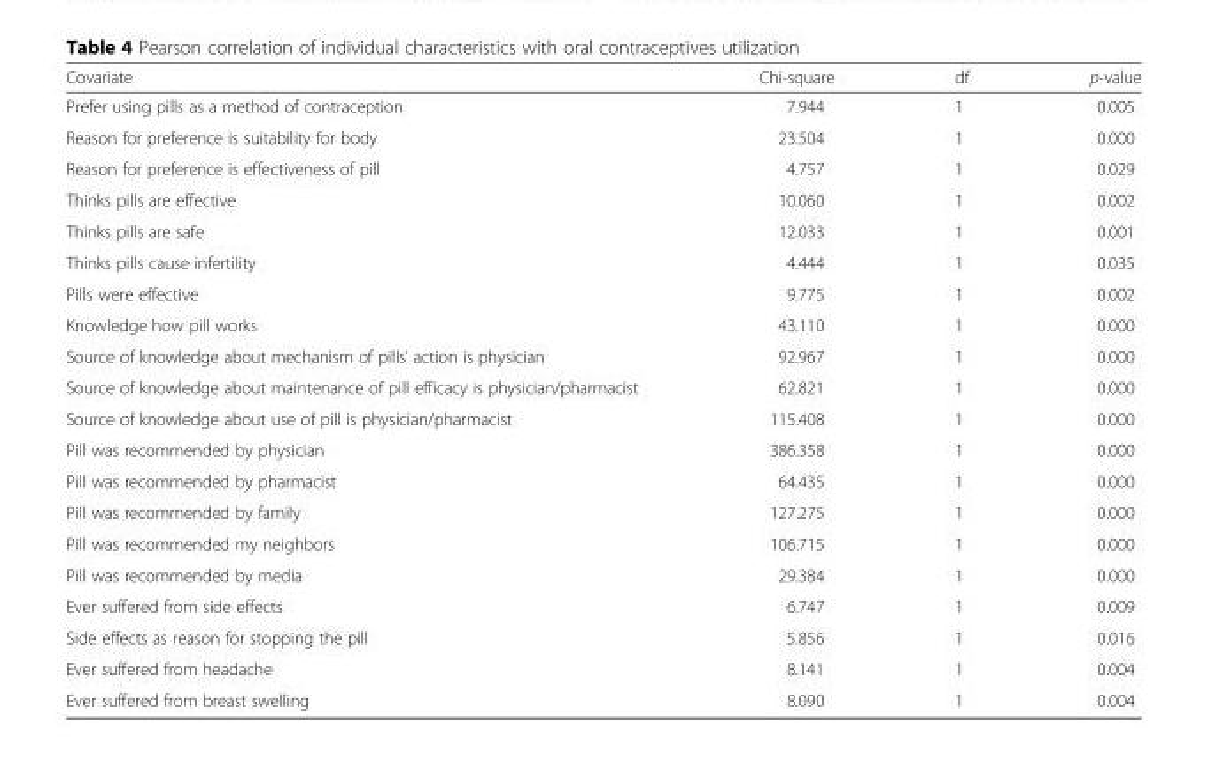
<table><thead><tr><td>Covariate</td><td>Chi-square</td><td>df</td><td>p-value</td></tr></thead><tbody><tr><td>Prefer using pills as a method of contraception</td><td>7.944</td><td>1</td><td>0.005</td></tr><tr><td>Reason for preference is suitability for body</td><td>23.504</td><td>1</td><td>0.000</td></tr><tr><td>Reason for preference is effectiveness of pill</td><td>4.757</td><td>1</td><td>0.029</td></tr><tr><td>Thinks pills are effective</td><td>10.060</td><td>1</td><td>0.002</td></tr><tr><td>Thinks pills are safe</td><td>12.033</td><td>1</td><td>0.001</td></tr><tr><td>Thinks pills cause infertility</td><td>4.444</td><td>1</td><td>0.035</td></tr><tr><td>Pills were effective</td><td>9.775</td><td>1</td><td>0.002</td></tr><tr><td>Knowledge how pill works</td><td>43.110</td><td>1</td><td>0.000</td></tr><tr><td>Source of knowledge about mechanism of pills’ action is physician</td><td>92.967</td><td>1</td><td>0.000</td></tr><tr><td>Source of knowledge about maintenance of pill efficacy is physician/pharmacist</td><td>62.821</td><td>1</td><td>0.000</td></tr><tr><td>Source of knowledge about use of pill is physician/pharmacist</td><td>115.408</td><td>1</td><td>0.000</td></tr><tr><td>Pill was recommended by physician</td><td>386.358</td><td>1</td><td>0.000</td></tr><tr><td>Pill was recommended by pharmacist</td><td>64.435</td><td>1</td><td>0.000</td></tr><tr><td>Pill was recommended by family</td><td>127.275</td><td>1</td><td>0.000</td></tr><tr><td>Pill was recommended my neighbors</td><td>106.715</td><td>1</td><td>0.000</td></tr><tr><td>Pill was recommended by media</td><td>29.384</td><td>1</td><td>0.000</td></tr><tr><td>Ever suffered from side effects</td><td>6.747</td><td>1</td><td>0.009</td></tr><tr><td>Side effects as reason for stopping the pill</td><td>5.856</td><td>1</td><td>0.016</td></tr><tr><td>Ever suffered from headache</td><td>8.141</td><td>1</td><td>0.004</td></tr><tr><td>Ever suffered from breast swelling</td><td>8.090</td><td>1</td><td>0.004</td></tr></tbody></table>